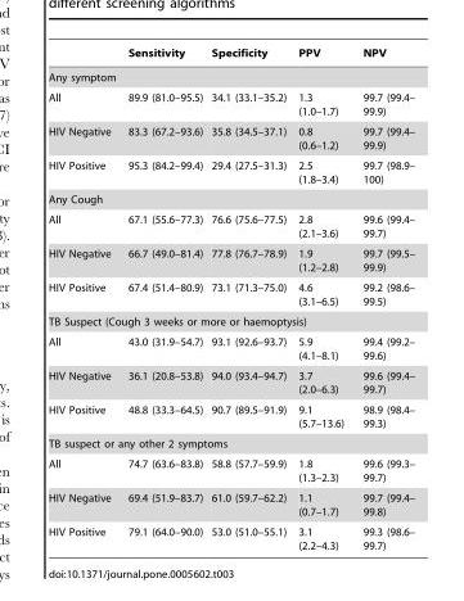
<table><thead><tr><td></td><td>Sensitivity</td><td>Specificity</td><td>PPV</td><td>NPV</td></tr></thead><tbody><tr><td colspan="5">Any symptom</td></tr><tr><td>All</td><td>89.9 (81.0–95.5)</td><td>34.1 (33.1–35.2)</td><td>1.3 (1.0–1.7)</td><td>99.7 (99.4– 99.9)</td></tr><tr><td>HIV Negative</td><td>83.3 (67.2–93.6)</td><td>35.8 (34.5–37.1)</td><td>0.8 (0.6–1.2)</td><td>99.7 (99.4– 99.9)</td></tr><tr><td>HIV Positive</td><td>95.3 (84.2–99.4)</td><td>29.4 (27.5–31.3)</td><td>2.5 (1.8–3.4)</td><td>99.7 (98.9– 100)</td></tr><tr><td colspan="5">Any Cough</td></tr><tr><td>All</td><td>67.1 (55.6–77.3)</td><td>76.6 (75.6–77.5)</td><td>2.8 (2.1–3.6)</td><td>99.6 (99.4– 99.7)</td></tr><tr><td>HIV Negative</td><td>66.7 (49.0–81.4)</td><td>77.8 (76.7–78.9)</td><td>1.9 (1.2–2.8)</td><td>99.7 (99.5– 99.9)</td></tr><tr><td>HIV Positive</td><td>67.4 (51.4–80.9)</td><td>73.1 (71.3–75.0)</td><td>4.6 (3.1–6.5)</td><td>99.2 (98.6– 99.5)</td></tr><tr><td colspan="5">TB Suspect (Cough 3 weeks or more or haemoptysis)</td></tr><tr><td>All</td><td>43.0 (31.9–54.7)</td><td>93.1 (92.6–93.7)</td><td>5.9 (4.1–8.1)</td><td>99.4 (99.2– 99.6)</td></tr><tr><td>HIV Negative</td><td>36.1 (20.8–53.8)</td><td>94.0 (93.4–94.7)</td><td>3.7 (2.0–6.3)</td><td>99.6 (99.4– 99.7)</td></tr><tr><td>HIV Positive</td><td>48.8 (33.3–64.5)</td><td>90.7 (89.5–91.9)</td><td>9.1 (5.7–13.6)</td><td>98.9 (98.4– 99.3)</td></tr><tr><td colspan="5">TB suspect or any other 2 symptoms</td></tr><tr><td>All</td><td>74.7 (63.6–83.8)</td><td>58.8 (57.7–59.9)</td><td>1.8 (1.3–2.3)</td><td>99.6 (99.3– 99.7)</td></tr><tr><td>HIV Negative</td><td>69.4 (51.9–83.7)</td><td>61.0 (59.7–62.2)</td><td>1.1 (0.7–1.7)</td><td>99.7 (99.4– 99.8)</td></tr><tr><td>HIV Positive</td><td>79.1 (64.0–90.0)</td><td>53.0 (51.0–55.1)</td><td>3.1 (2.2–4.3)</td><td>99.3 (98.6– 99.7)</td></tr></tbody></table>